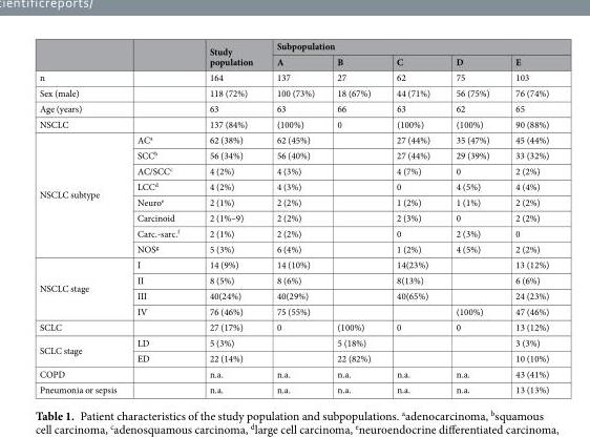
<table><thead><tr><td rowspan="2"></td><td rowspan="2"></td><td rowspan="2">Study population</td><td colspan="5">Subpopulation</td></tr><tr><td>A</td><td>B</td><td>C</td><td>D</td><td>E</td></tr></thead><tbody><tr><td>n</td><td></td><td>164</td><td>137</td><td>27</td><td>62</td><td>75</td><td>103</td></tr><tr><td>Sex (male)</td><td></td><td>118 (72%)</td><td>100 (73%)</td><td>18 (67%)</td><td>44 (71%)</td><td>56 (75%)</td><td>76 (74%)</td></tr><tr><td>Age (years)</td><td></td><td>63</td><td>63</td><td>66</td><td>63</td><td>62</td><td>65</td></tr><tr><td>NSCLC</td><td></td><td>137 (84%)</td><td>(100%)</td><td>0</td><td>(100%)</td><td>(100%)</td><td>90 (88%)</td></tr><tr><td rowspan="8">NSCLC subtype</td><td>AC<sup>a</sup></td><td>62 (38%)</td><td>62 (45%)</td><td></td><td>27 (44%)</td><td>35 (47%)</td><td>45 (44%)</td></tr><tr><td>SCC<sup>b</sup></td><td>56 (34%)</td><td>56 (40%)</td><td></td><td>27 (44%)</td><td>29 (39%)</td><td>33 (32%)</td></tr><tr><td>AC/SCC<sup>c</sup></td><td>4 (2%)</td><td>4 (3%)</td><td></td><td>4 (7%)</td><td>0</td><td>2 (2%)</td></tr><tr><td>LCC<sup>d</sup></td><td>4 (2%)</td><td>4 (3%)</td><td></td><td>0</td><td>4 (5%)</td><td>4 (4%)</td></tr><tr><td>Neuro<sup>e</sup></td><td>2 (1%)</td><td>2 (2%)</td><td></td><td>1 (2%)</td><td>1 (1%)</td><td>2 (2%)</td></tr><tr><td>Carcinoid</td><td>2 (1%–9)</td><td>2 (2%)</td><td></td><td>2 (3%)</td><td>0</td><td>2 (2%)</td></tr><tr><td>Carc.-sarc.<sup>f</sup></td><td>2 (1%)</td><td>2 (2%)</td><td></td><td>0</td><td>2 (3%)</td><td>0</td></tr><tr><td>NOS<sup>g</sup></td><td>5 (3%)</td><td>6 (4%)</td><td></td><td>1 (2%)</td><td>4 (5%)</td><td>2 (2%)</td></tr><tr><td rowspan="4">NSCLC stage</td><td>I</td><td>14 (9%)</td><td>14 (10%)</td><td></td><td>14(23%)</td><td></td><td>13 (12%)</td></tr><tr><td>II</td><td>8 (5%)</td><td>8 (6%)</td><td></td><td>8(13%)</td><td></td><td>6 (6%)</td></tr><tr><td>III</td><td>40(24%)</td><td>40(29%)</td><td></td><td>40(65%)</td><td></td><td>24 (23%)</td></tr><tr><td>IV</td><td>76 (46%)</td><td>75 (55%)</td><td></td><td></td><td>(100%)</td><td>47 (46%)</td></tr><tr><td>SCLC</td><td></td><td>27 (17%)</td><td>0</td><td>(100%)</td><td>0</td><td>0</td><td>13 (12%)</td></tr><tr><td rowspan="2">SCLC stage</td><td>LD</td><td>5 (3%)</td><td></td><td>5 (18%)</td><td></td><td></td><td>3 (3%)</td></tr><tr><td>ED</td><td>22 (14%)</td><td></td><td>22 (82%)</td><td></td><td></td><td>10 (10%)</td></tr><tr><td>COPD</td><td></td><td>n.a.</td><td>n.a.</td><td>n.a.</td><td>n.a.</td><td>n.a.</td><td>43 (41%)</td></tr><tr><td>Pneumonia or sepsis</td><td></td><td>n.a.</td><td>n.a.</td><td>n.a.</td><td>n.a.</td><td>n.a.</td><td>13 (13%)</td></tr></tbody></table>